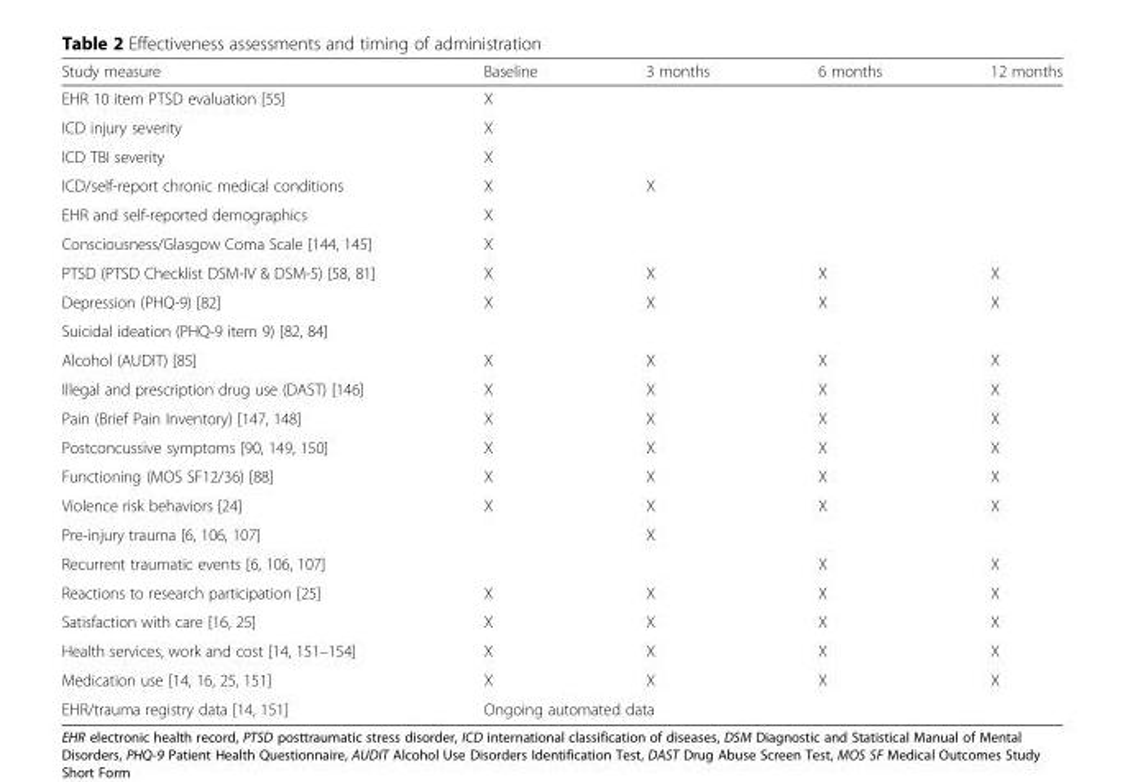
<table><thead><tr><td>Study measure</td><td>Baseline</td><td>3 months</td><td>6 months</td><td>12 months</td></tr></thead><tbody><tr><td>EHR 10 item PTSD evaluation [55]</td><td>X</td><td></td><td></td><td></td></tr><tr><td>ICD injury severity</td><td>X</td><td></td><td></td><td></td></tr><tr><td>ICD TBI severity</td><td>X</td><td></td><td></td><td></td></tr><tr><td>ICD/self-report chronic medical conditions</td><td>X</td><td>X</td><td></td><td></td></tr><tr><td>EHR and self-reported demographics</td><td>X</td><td></td><td></td><td></td></tr><tr><td>Consciousness/Glasgow Coma Scale [144, 145]</td><td>X</td><td></td><td></td><td></td></tr><tr><td>PTSD (PTSD Checklist DSM-IV &amp; DSM-5) [58, 81]</td><td>X</td><td>X</td><td>X</td><td>X</td></tr><tr><td>Depression (PHQ-9) [82]</td><td>X</td><td>X</td><td>X</td><td>X</td></tr><tr><td colspan="5">Suicidal ideation (PHQ-9 item 9) [82, 84]</td></tr><tr><td>Alcohol (AUDIT) [85]</td><td>X</td><td>X</td><td>X</td><td>X</td></tr><tr><td>Illegal and prescription drug use (DAST) [146]</td><td>X</td><td>X</td><td>X</td><td>X</td></tr><tr><td>Pain (Brief Pain Inventory) [147, 148]</td><td>X</td><td>X</td><td>X</td><td>X</td></tr><tr><td>Postconcussive symptoms [90, 149, 150]</td><td>X</td><td>X</td><td>X</td><td>X</td></tr><tr><td>Functioning (MOS SF12/36) [88]</td><td>X</td><td>X</td><td>X</td><td>X</td></tr><tr><td>Violence risk behaviors [24]</td><td>X</td><td>X</td><td>X</td><td>X</td></tr><tr><td>Pre-injury trauma [6, 106, 107]</td><td></td><td>X</td><td></td><td></td></tr><tr><td>Recurrent traumatic events [6, 106, 107]</td><td></td><td></td><td>X</td><td>X</td></tr><tr><td>Reactions to research participation [25]</td><td>X</td><td>X</td><td>X</td><td>X</td></tr><tr><td>Satisfaction with care [16, 25]</td><td>X</td><td>X</td><td>X</td><td>X</td></tr><tr><td>Health services, work and cost [14, 151–154]</td><td>X</td><td>X</td><td>X</td><td>X</td></tr><tr><td>Medication use [14, 16, 25, 151]</td><td>X</td><td>X</td><td>X</td><td>X</td></tr><tr><td>EHR/trauma registry data [14, 151]</td><td colspan="4">Ongoing automated data</td></tr></tbody></table>